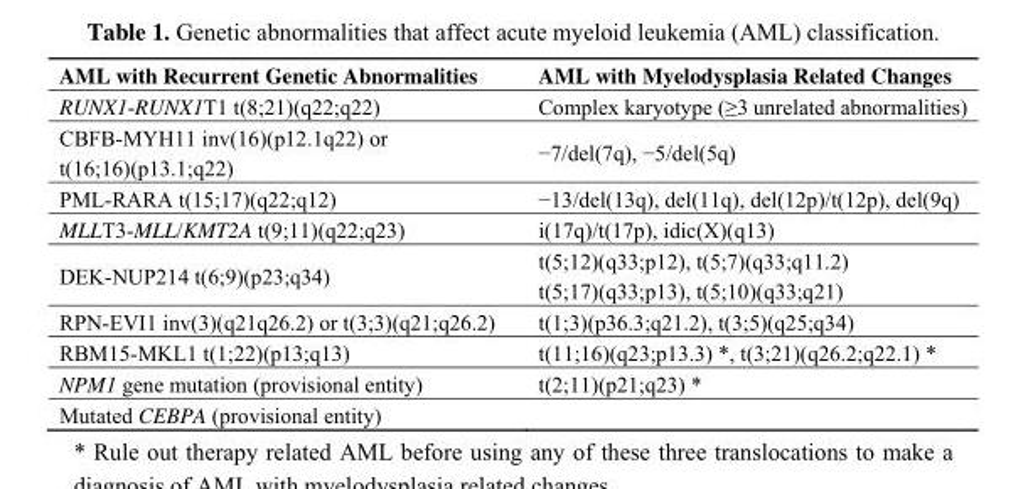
<table><thead><tr><td>AML with Recurrent Genetic Abnormalities</td><td>AML with Myelodysplasia Related Changes</td></tr></thead><tbody><tr><td>RUNX1-RUNX1T1 t(8;21)(q22;q22)</td><td>Complex karyotype (≥3 unrelated abnormalities)</td></tr><tr><td>CBFB-MYH11 inv(16)(p12.1q22) or t(16;16)(p13.1;q22)</td><td>−7/del(7q), −5/del(5q)</td></tr><tr><td>PML-RARA t(15;17)(q22;q12)</td><td>−13/del(13q), del(11q), del(12p)/t(12p), del(9q)</td></tr><tr><td>MLLT3-MLL/KMT2A t(9;11)(q22;q23)</td><td>i(17q)/t(17p), idic(X)(q13)</td></tr><tr><td>DEK-NUP214 t(6;9)(p23;q34)</td><td>t(5;12)(q33;p12), t(5;7)(q33;q11.2) t(5;17)(q33;p13), t(5;10)(q33;q21)</td></tr><tr><td>RPN-EVI1 inv(3)(q21q26.2) or t(3;3)(q21;q26.2)</td><td>t(1;3)(p36.3;q21.2), t(3;5)(q25;q34)</td></tr><tr><td>RBM15-MKL1 t(1;22)(p13;q13)</td><td>t(11;16)(q23;p13.3) *, t(3;21)(q26.2;q22.1) *</td></tr><tr><td>NPM1 gene mutation (provisional entity)</td><td>t(2;11)(p21;q23) *</td></tr><tr><td>Mutated CEBPA (provisional entity)</td><td></td></tr></tbody></table>